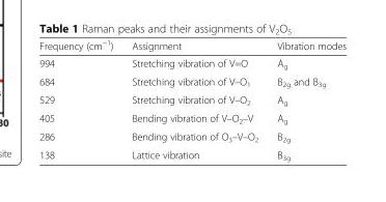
<table><thead><tr><td>Frequency (cm<sup>−1</sup>)</td><td>Assignment</td><td>Vibration modes</td></tr></thead><tbody><tr><td>994</td><td>Stretching vibration of V=O</td><td>A<sub>g</sub></td></tr><tr><td>684</td><td>Stretching vibration of V–O<sub>1</sub></td><td>B<sub>2g</sub> and B<sub>3g</sub></td></tr><tr><td>529</td><td>Stretching vibration of V–O<sub>2</sub></td><td>A<sub>g</sub></td></tr><tr><td>405</td><td>Bending vibration of V–O<sub>2</sub>–V</td><td>A<sub>g</sub></td></tr><tr><td>286</td><td>Bending vibration of O<sub>3</sub>–V–O<sub>2</sub></td><td>B<sub>2g</sub></td></tr><tr><td>138</td><td>Lattice vibration</td><td>B<sub>3g</sub></td></tr></tbody></table>